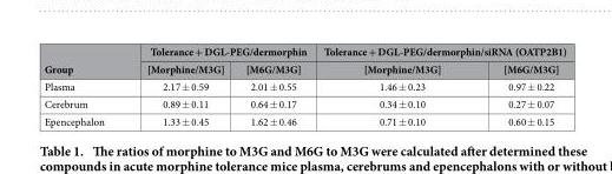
<table><thead><tr><td rowspan="2">Group</td><td colspan="2">Tolerance + DGL-PEG/dermorphin</td><td colspan="2">Tolerance + DGL-PEG/dermorphin/siRNA (OATP2B1)</td></tr><tr><td>[Morphine/M3G]</td><td>[M6G/M3G]</td><td>[Morphine/M3G]</td><td>[M6G/M3G]</td></tr></thead><tbody><tr><td>Plasma</td><td>2.17 ± 0.59</td><td>2.01 ± 0.55</td><td>1.46 ± 0.23</td><td>0.97 ± 0.22</td></tr><tr><td>Cerebrum</td><td>0.89 ± 0.11</td><td>0.64 ± 0.17</td><td>0.34 ± 0.10</td><td>0.27 ± 0.07</td></tr><tr><td>Epencephalon</td><td>1.33 ± 0.45</td><td>1.62 ± 0.46</td><td>0.71 ± 0.10</td><td>0.60 ± 0.15</td></tr></tbody></table>